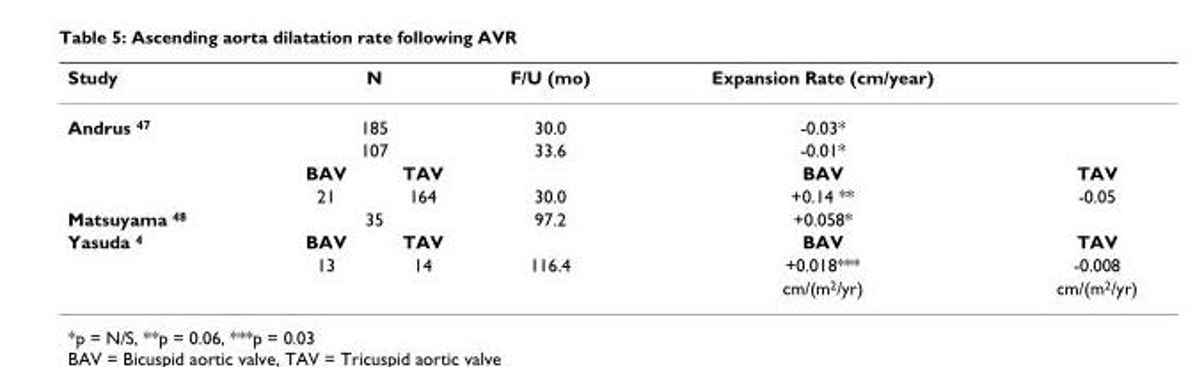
<table><thead><tr><td rowspan="4">Study Andrus <sup>47</sup></td><td rowspan="3" colspan="2">N 185 107</td><td rowspan="4">F/U (mo) 30.0 33.6</td><td rowspan="4">Expansion Rate (cm/year) -0.03* -0.01* BAV</td><td rowspan="4">TAV</td></tr><tr></tr><tr></tr><tr><td>BAV</td><td>TAV</td></tr></thead><tbody><tr><td></td><td>21</td><td>164</td><td>30.0</td><td>+0.14 **</td><td>-0.05</td></tr><tr><td>Matsuyama <sup>48</sup></td><td colspan="2">35</td><td>97.2</td><td>+0.058*</td><td></td></tr><tr><td rowspan="3">Yasuda <sup>4</sup></td><td>BAV</td><td>TAV</td><td></td><td>BAV</td><td>TAV</td></tr><tr><td>13</td><td>14</td><td>116.4</td><td>+0.018***</td><td>-0.008</td></tr><tr><td></td><td></td><td></td><td>cm/(m<sup>2</sup>/yr)</td><td>cm/(m<sup>2</sup>/yr)</td></tr></tbody></table>